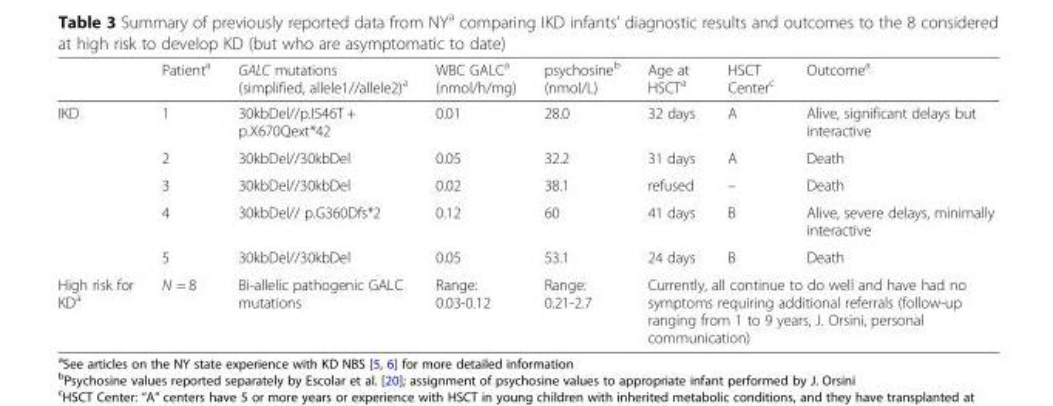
<table><thead><tr><td></td><td>Patient<sup>a</sup></td><td>GALC mutations (simplified, allele1//allele2)<sup>a</sup></td><td>WBC GALC<sup>a</sup> (nmol/h/mg)</td><td>psychosine<sup>b</sup> (nmol/L)</td><td>Age at HSCT<sup>a</sup></td><td>HSCT Center<sup>c</sup></td><td>Outcome<sup>a</sup></td></tr></thead><tbody><tr><td rowspan="5">IKD</td><td>1</td><td>30kbDel//p.I546T + p.X670Qext*42</td><td>0.01</td><td>28.0</td><td>32 days</td><td>A</td><td>Alive, significant delays but interactive</td></tr><tr><td>2</td><td>30kbDel//30kbDel</td><td>0.05</td><td>32.2</td><td>31 days</td><td>A</td><td>Death</td></tr><tr><td>3</td><td>30kbDel//30kbDel</td><td>0.02</td><td>38.1</td><td>refused</td><td>–</td><td>Death</td></tr><tr><td>4</td><td>30kbDel// p.G360Dfs*2</td><td>0.12</td><td>60</td><td>41 days</td><td>B</td><td>Alive, severe delays, minimally interactive</td></tr><tr><td>5</td><td>30kbDel//30kbDel</td><td>0.05</td><td>53.1</td><td>24 days</td><td>B</td><td>Death</td></tr><tr><td>High risk for KD<sup>a</sup></td><td>N = 8</td><td>Bi-allelic pathogenic GALC mutations</td><td>Range: 0.03-0.12</td><td>Range: 0.21-2.7</td><td colspan="3">Currently, all continue to do well and have had no symptoms requiring additional referrals (follow-up ranging from 1 to 9 years, J. Orsini, personal communication)</td></tr></tbody></table>